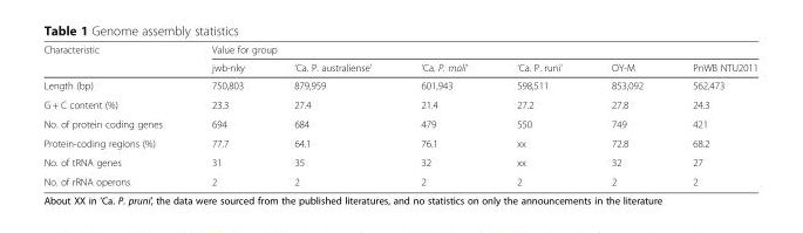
<table><thead><tr><td rowspan="2">Characteristic</td><td colspan="6">Value for group</td></tr><tr><td>jwb-nky</td><td>‘Ca. P. australiense’</td><td>‘Ca. P. mali’</td><td>‘Ca. P. runi’</td><td>OY-M</td><td>PnWB NTU2011</td></tr></thead><tbody><tr><td>Length (bp)</td><td>750,803</td><td>879,959</td><td>601,943</td><td>598,511</td><td>853,092</td><td>562,473</td></tr><tr><td>G + C content (%)</td><td>23.3</td><td>27.4</td><td>21.4</td><td>27.2</td><td>27.8</td><td>24.3</td></tr><tr><td>No. of protein coding genes</td><td>694</td><td>684</td><td>479</td><td>550</td><td>749</td><td>421</td></tr><tr><td>Protein-coding regions (%)</td><td>77.7</td><td>64.1</td><td>76.1</td><td>xx</td><td>72.8</td><td>68.2</td></tr><tr><td>No. of tRNA genes</td><td>31</td><td>35</td><td>32</td><td>xx</td><td>32</td><td>27</td></tr><tr><td>No. of rRNA operons</td><td>2</td><td>2</td><td>2</td><td>2</td><td>2</td><td>2</td></tr></tbody></table>